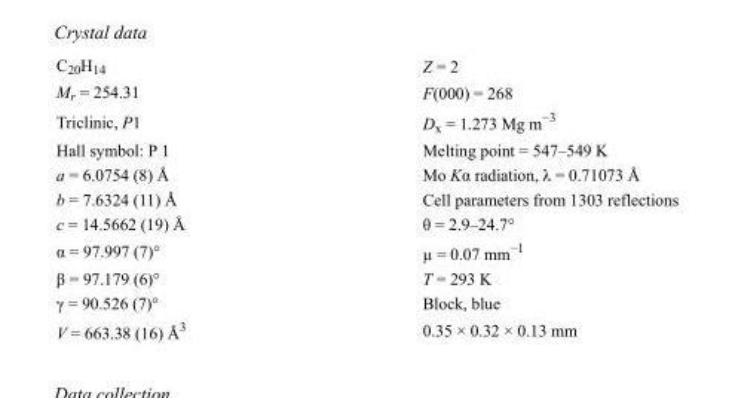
<table><tbody><tr><td>C<sub>20</sub>H<sub>14</sub></td><td>Z = 2</td></tr><tr><td>M<sub>r</sub> = 254.31</td><td>F(000) = 268</td></tr><tr><td>Triclinic, P1</td><td>D<sub>x</sub> = 1.273 Mg m<sup>−3</sup></td></tr><tr><td>Hall symbol: P 1</td><td>Melting point = 547–549 K</td></tr><tr><td>a = 6.0754 (8) Å</td><td>Mo Kα radiation, λ = 0.71073 Å</td></tr><tr><td>b = 7.6324 (11) Å</td><td>Cell parameters from 1303 reflections</td></tr><tr><td>c = 14.5662 (19) Å</td><td>θ = 2.9–24.7°</td></tr><tr><td>α = 97.997 (7)°</td><td>µ = 0.07 mm<sup>−1</sup></td></tr><tr><td>β = 97.179 (6)°</td><td>T = 293 K</td></tr><tr><td>γ = 90.526 (7)°</td><td>Block, blue</td></tr><tr><td>V = 663.38 (16) Å<sup>3</sup></td><td>0.35 × 0.32 × 0.13 mm</td></tr></tbody></table>